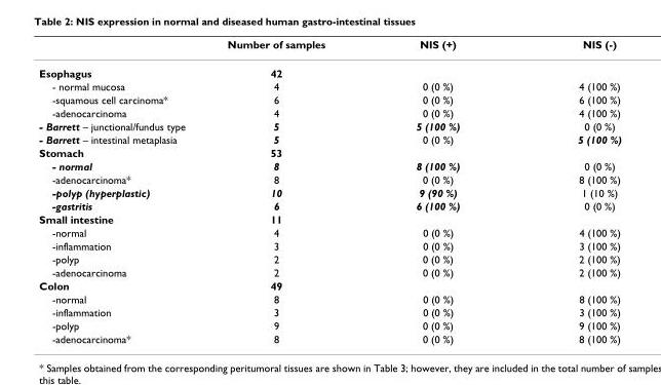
<table><thead><tr><td></td><td>Number of samples</td><td>NIS (+)</td><td>NIS (-)</td></tr></thead><tbody><tr><td>Esophagus</td><td>42</td><td></td><td></td></tr><tr><td>- normal mucosa</td><td>4</td><td>0 (0 %)</td><td>4 (100 %)</td></tr><tr><td>-squamous cell carcinoma*</td><td>6</td><td>0 (0 %)</td><td>6 (100 %)</td></tr><tr><td>-adenocarcinoma</td><td>4</td><td>0 (0 %)</td><td>4 (100 %)</td></tr><tr><td>- Barrett – junctional/fundus type</td><td>5</td><td>5 (100 %)</td><td>0 (0 %)</td></tr><tr><td>- Barrett – intestinal metaplasia</td><td>5</td><td>0 (0 %)</td><td>5 (100 %)</td></tr><tr><td>Stomach</td><td>53</td><td></td><td></td></tr><tr><td>- normal</td><td>8</td><td>8 (100 %)</td><td>0 (0 %)</td></tr><tr><td>-adenocarcinoma*</td><td>8</td><td>0 (0 %)</td><td>8 (100 %)</td></tr><tr><td>-polyp (hyperplastic)</td><td>10</td><td>9 (90 %)</td><td>1 (10 %)</td></tr><tr><td>-gastritis</td><td>6</td><td>6 (100 %)</td><td>0 (0 %)</td></tr><tr><td>Small intestine</td><td>11</td><td></td><td></td></tr><tr><td>-normal</td><td>4</td><td>0 (0 %)</td><td>4 (100 %)</td></tr><tr><td>-inflammation</td><td>3</td><td>0 (0 %)</td><td>3 (100 %)</td></tr><tr><td>-polyp</td><td>2</td><td>0 (0 %)</td><td>2 (100 %)</td></tr><tr><td>-adenocarcinoma</td><td>2</td><td>0 (0 %)</td><td>2 (100 %)</td></tr><tr><td>Colon</td><td>49</td><td></td><td></td></tr><tr><td>-normal</td><td>8</td><td>0 (0 %)</td><td>8 (100 %)</td></tr><tr><td>-inflammation</td><td>3</td><td>0 (0 %)</td><td>3 (100 %)</td></tr><tr><td>-polyp</td><td>9</td><td>0 (0 %)</td><td>9 (100 %)</td></tr><tr><td>-adenocarcinoma*</td><td>8</td><td>0 (0 %)</td><td>8 (100 %)</td></tr></tbody></table>